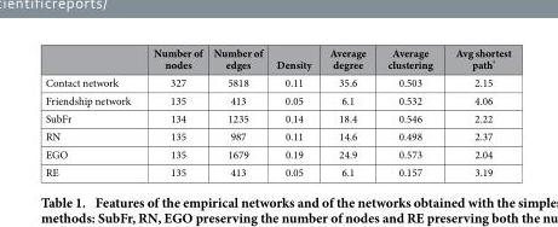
<table><thead><tr><td></td><td>Number of nodes</td><td>Number of edges</td><td>Density</td><td>Average degree</td><td>Average clustering</td><td>Avg shortest path*</td></tr></thead><tbody><tr><td>Contact network</td><td>327</td><td>5818</td><td>0.11</td><td>35.6</td><td>0.503</td><td>2.15</td></tr><tr><td>Friendship network</td><td>135</td><td>413</td><td>0.05</td><td>6.1</td><td>0.532</td><td>4.06</td></tr><tr><td>SubFr</td><td>134</td><td>1235</td><td>0.14</td><td>18.4</td><td>0.546</td><td>2.22</td></tr><tr><td>RN</td><td>135</td><td>987</td><td>0.11</td><td>14.6</td><td>0.498</td><td>2.37</td></tr><tr><td>EGO</td><td>135</td><td>1679</td><td>0.19</td><td>24.9</td><td>0.573</td><td>2.04</td></tr><tr><td>RE</td><td>135</td><td>413</td><td>0.05</td><td>6.1</td><td>0.157</td><td>3.19</td></tr></tbody></table>